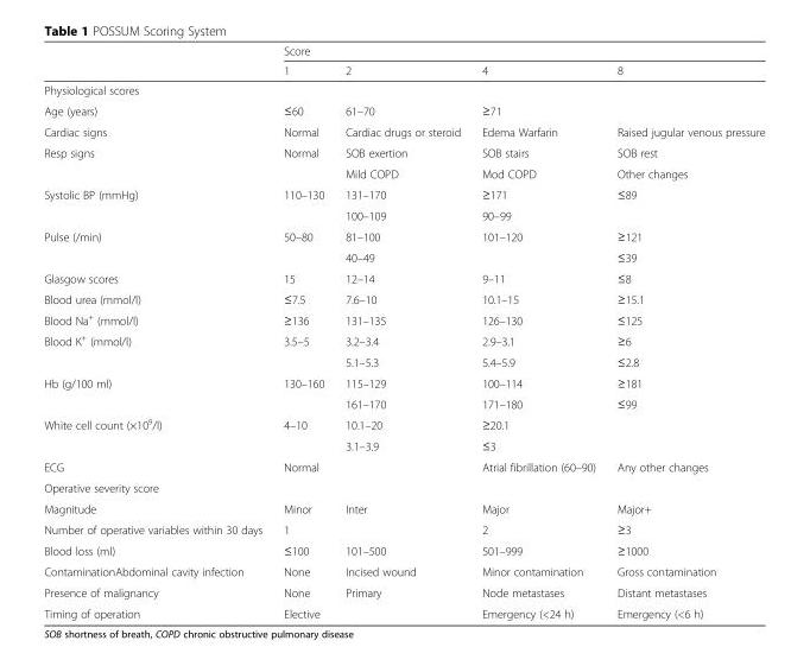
<table><thead><tr><td rowspan="2"></td><td colspan="4">Score</td></tr><tr><td>1</td><td>2</td><td>4</td><td>8</td></tr></thead><tbody><tr><td colspan="5">Physiological scores</td></tr><tr><td>Age (years)</td><td>≤60</td><td>61–70</td><td>≥71</td><td></td></tr><tr><td>Cardiac signs</td><td>Normal</td><td>Cardiac drugs or steroid</td><td>Edema Warfarin</td><td>Raised jugular venous pressure</td></tr><tr><td rowspan="2">Resp signs</td><td rowspan="2">Normal</td><td>SOB exertion</td><td>SOB stairs</td><td>SOB rest</td></tr><tr><td>Mild COPD</td><td>Mod COPD</td><td>Other changes</td></tr><tr><td rowspan="2">Systolic BP (mmHg)</td><td rowspan="2">110–130</td><td>131–170</td><td>≥171</td><td rowspan="2">≤89</td></tr><tr><td>100–109</td><td>90–99</td></tr><tr><td rowspan="2">Pulse (/min)</td><td rowspan="2">50–80</td><td>81–100</td><td>101–120</td><td>≥121</td></tr><tr><td>40–49</td><td></td><td>≤39</td></tr><tr><td>Glasgow scores</td><td>15</td><td>12–14</td><td>9–11</td><td>≤8</td></tr><tr><td>Blood urea (mmol/l)</td><td>≤7.5</td><td>7.6–10</td><td>10.1–15</td><td>≥15.1</td></tr><tr><td>Blood Na<sup>+</sup> (mmol/l)</td><td>≥136</td><td>131–135</td><td>126–130</td><td>≤125</td></tr><tr><td rowspan="2">Blood K<sup>+</sup> (mmol/l)</td><td rowspan="2">3.5–5</td><td>3.2–3.4</td><td>2.9–3.1</td><td>≥6</td></tr><tr><td>5.1–5.3</td><td>5.4–5.9</td><td>≤2.8</td></tr><tr><td rowspan="2">Hb (g/100 ml)</td><td rowspan="2">130–160</td><td>115–129</td><td>100–114</td><td>≥181</td></tr><tr><td>161–170</td><td>171–180</td><td>≤99</td></tr><tr><td rowspan="2">White cell count (×10<sup>9</sup>/l)</td><td rowspan="2">4–10</td><td>10.1–20</td><td>≥20.1</td><td></td></tr><tr><td>3.1–3.9</td><td>≤3</td><td></td></tr><tr><td>ECG</td><td>Normal</td><td></td><td>Atrial fibrillation (60–90)</td><td>Any other changes</td></tr><tr><td colspan="5">Operative severity score</td></tr><tr><td>Magnitude</td><td>Minor</td><td>Inter</td><td>Major</td><td>Major+</td></tr><tr><td>Number of operative variables within 30 days</td><td>1</td><td></td><td>2</td><td>≥3</td></tr><tr><td>Blood loss (ml)</td><td>≤100</td><td>101–500</td><td>501–999</td><td>≥1000</td></tr><tr><td>ContaminationAbdominal cavity infection</td><td>None</td><td>Incised wound</td><td>Minor contamination</td><td>Gross contamination</td></tr><tr><td>Presence of malignancy</td><td>None</td><td>Primary</td><td>Node metastases</td><td>Distant metastases</td></tr><tr><td>Timing of operation</td><td>Elective</td><td></td><td>Emergency (&lt;24 h)</td><td>Emergency (&lt;6 h)</td></tr></tbody></table>